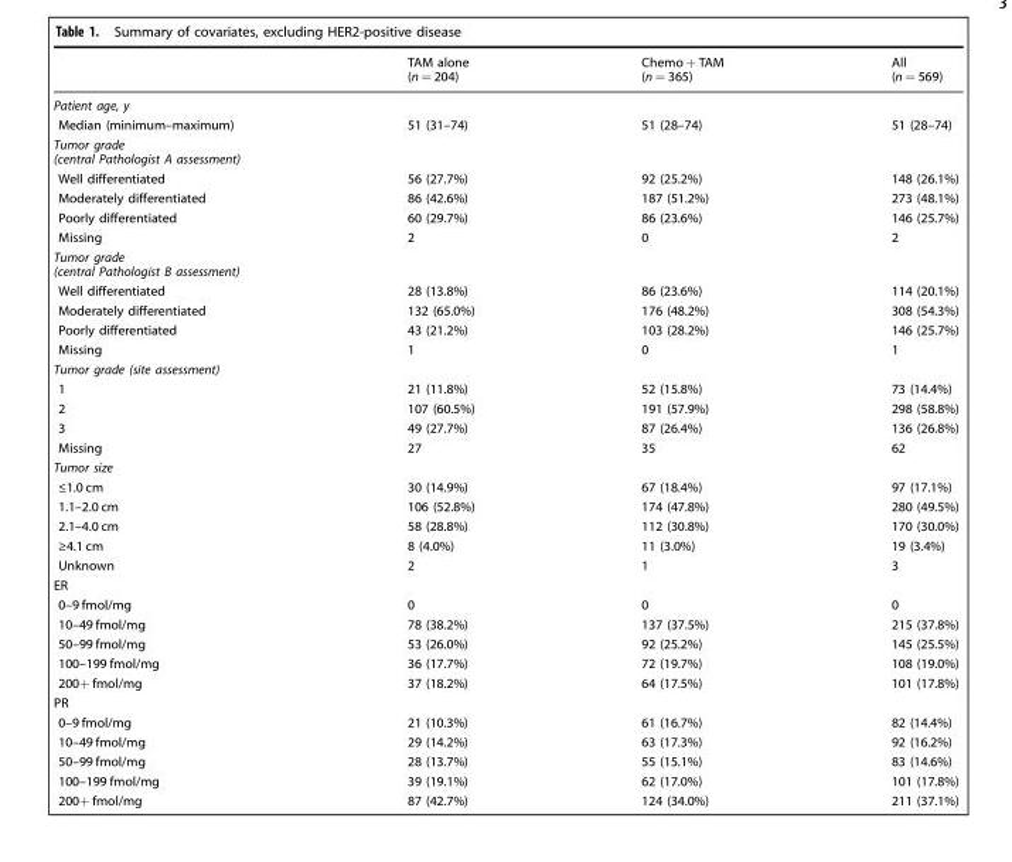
<table><thead><tr><td></td><td>TAM alone (n = 204)</td><td>Chemo + TAM (n = 365)</td><td>All (n = 569)</td></tr></thead><tbody><tr><td colspan="4">Patient age, y</td></tr><tr><td>Median (minimum–maximum)</td><td>51 (31–74)</td><td>51 (28–74)</td><td>51 (28–74)</td></tr><tr><td colspan="4">Tumor grade (central Pathologist A assessment)</td></tr><tr><td>Well differentiated</td><td>56 (27.7%)</td><td>92 (25.2%)</td><td>148 (26.1%)</td></tr><tr><td>Moderately differentiated</td><td>86 (42.6%)</td><td>187 (51.2%)</td><td>273 (48.1%)</td></tr><tr><td>Poorly differentiated</td><td>60 (29.7%)</td><td>86 (23.6%)</td><td>146 (25.7%)</td></tr><tr><td>Missing</td><td>2</td><td>0</td><td>2</td></tr><tr><td colspan="4">Tumor grade (central Pathologist B assessment)</td></tr><tr><td>Well differentiated</td><td>28 (13.8%)</td><td>86 (23.6%)</td><td>114 (20.1%)</td></tr><tr><td>Moderately differentiated</td><td>132 (65.0%)</td><td>176 (48.2%)</td><td>308 (54.3%)</td></tr><tr><td>Poorly differentiated</td><td>43 (21.2%)</td><td>103 (28.2%)</td><td>146 (25.7%)</td></tr><tr><td>Missing</td><td>1</td><td>0</td><td>1</td></tr><tr><td colspan="4">Tumor grade (site assessment)</td></tr><tr><td>1</td><td>21 (11.8%)</td><td>52 (15.8%)</td><td>73 (14.4%)</td></tr><tr><td>2</td><td>107 (60.5%)</td><td>191 (57.9%)</td><td>298 (58.8%)</td></tr><tr><td>3</td><td>49 (27.7%)</td><td>87 (26.4%)</td><td>136 (26.8%)</td></tr><tr><td>Missing</td><td>27</td><td>35</td><td>62</td></tr><tr><td colspan="4">Tumor size</td></tr><tr><td>≤1.0 cm</td><td>30 (14.9%)</td><td>67 (18.4%)</td><td>97 (17.1%)</td></tr><tr><td>1.1–2.0 cm</td><td>106 (52.8%)</td><td>174 (47.8%)</td><td>280 (49.5%)</td></tr><tr><td>2.1–4.0 cm</td><td>58 (28.8%)</td><td>112 (30.8%)</td><td>170 (30.0%)</td></tr><tr><td>≥4.1 cm</td><td>8 (4.0%)</td><td>11 (3.0%)</td><td>19 (3.4%)</td></tr><tr><td>Unknown</td><td>2</td><td>1</td><td>3</td></tr><tr><td colspan="4">ER</td></tr><tr><td>0–9 fmol/mg</td><td>0</td><td>0</td><td>0</td></tr><tr><td>10–49 fmol/mg</td><td>78 (38.2%)</td><td>137 (37.5%)</td><td>215 (37.8%)</td></tr><tr><td>50–99 fmol/mg</td><td>53 (26.0%)</td><td>92 (25.2%)</td><td>145 (25.5%)</td></tr><tr><td>100–199 fmol/mg</td><td>36 (17.7%)</td><td>72 (19.7%)</td><td>108 (19.0%)</td></tr><tr><td>200+ fmol/mg</td><td>37 (18.2%)</td><td>64 (17.5%)</td><td>101 (17.8%)</td></tr><tr><td colspan="4">PR</td></tr><tr><td>0–9 fmol/mg</td><td>21 (10.3%)</td><td>61 (16.7%)</td><td>82 (14.4%)</td></tr><tr><td>10–49 fmol/mg</td><td>29 (14.2%)</td><td>63 (17.3%)</td><td>92 (16.2%)</td></tr><tr><td>50–99 fmol/mg</td><td>28 (13.7%)</td><td>55 (15.1%)</td><td>83 (14.6%)</td></tr><tr><td>100–199 fmol/mg</td><td>39 (19.1%)</td><td>62 (17.0%)</td><td>101 (17.8%)</td></tr><tr><td>200+ fmol/mg</td><td>87 (42.7%)</td><td>124 (34.0%)</td><td>211 (37.1%)</td></tr></tbody></table>